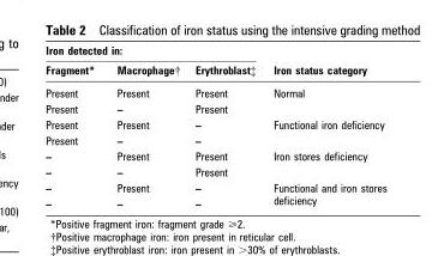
<table><thead><tr><td colspan="3">Iron detected in:</td><td rowspan="2">Iron status category</td></tr><tr><td>Fragment*</td><td>Macrophage†</td><td>Erythroblast‡</td></tr></thead><tbody><tr><td>Present</td><td>Present</td><td>Present</td><td rowspan="2">Normal</td></tr><tr><td>Present</td><td>–</td><td>Present</td></tr><tr><td>Present</td><td>Present</td><td>–</td><td rowspan="2">Functional iron deficiency</td></tr><tr><td>Present</td><td>–</td><td>–</td></tr><tr><td>–</td><td>Present</td><td>Present</td><td rowspan="2">Iron stores deficiency</td></tr><tr><td>–</td><td>–</td><td>Present</td></tr><tr><td>–</td><td>Present</td><td>–</td><td rowspan="2">Functional and iron stores deficiency</td></tr><tr><td>–</td><td>–</td><td>–</td></tr></tbody></table>